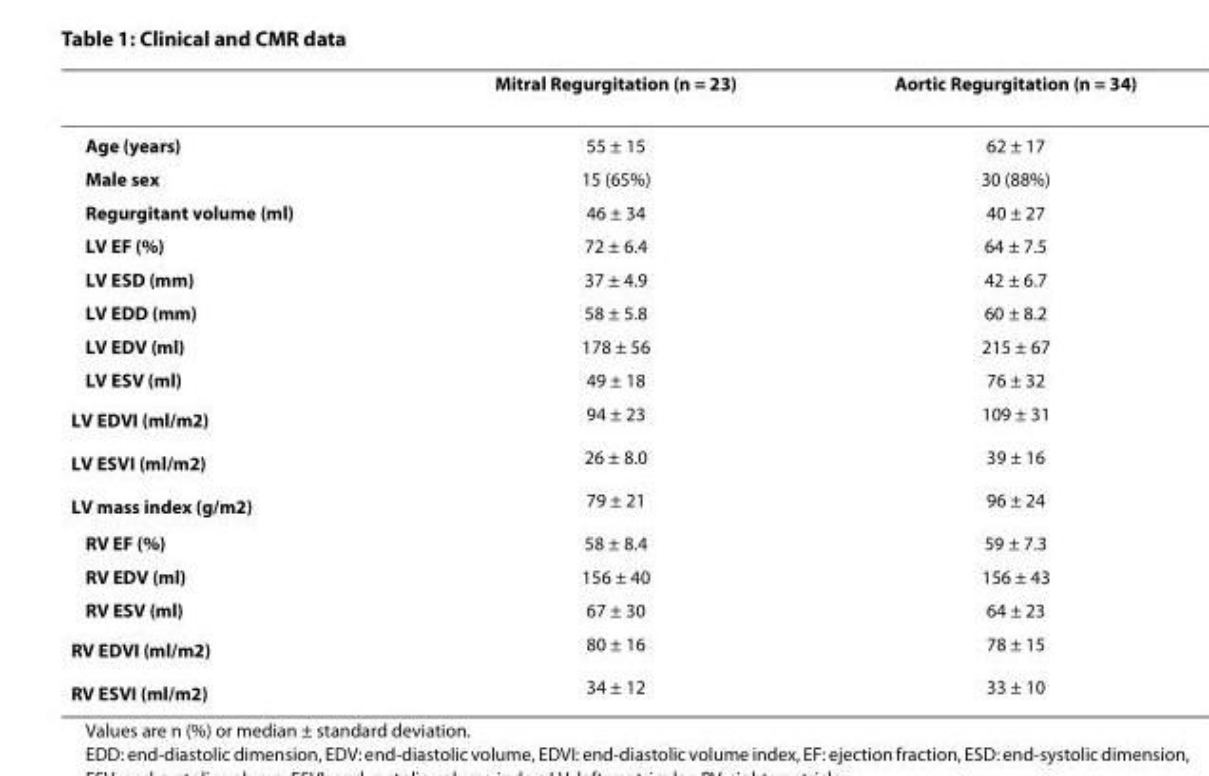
<table><thead><tr><td></td><td>Mitral Regurgitation (n = 23)</td><td>Aortic Regurgitation (n = 34)</td></tr></thead><tbody><tr><td>Age (years)</td><td>55 ± 15</td><td>62 ± 17</td></tr><tr><td>Male sex</td><td>15 (65%)</td><td>30 (88%)</td></tr><tr><td>Regurgitant volume (ml)</td><td>46 ± 34</td><td>40 ± 27</td></tr><tr><td>LV EF (%)</td><td>72 ± 6.4</td><td>64 ± 7.5</td></tr><tr><td>LV ESD (mm)</td><td>37 ± 4.9</td><td>42 ± 6.7</td></tr><tr><td>LV EDD (mm)</td><td>58 ± 5.8</td><td>60 ± 8.2</td></tr><tr><td>LV EDV (ml)</td><td>178 ± 56</td><td>215 ± 67</td></tr><tr><td>LV ESV (ml)</td><td>49 ± 18</td><td>76 ± 32</td></tr><tr><td>LV EDVI (ml/m<sup>2</sup>)</td><td>94 ± 23</td><td>109 ± 31</td></tr><tr><td>LV ESVI (ml/m<sup>2</sup>)</td><td>26 ± 8.0</td><td>39 ± 16</td></tr><tr><td>LV mass index (g/m<sup>2</sup>)</td><td>79 ± 21</td><td>96 ± 24</td></tr><tr><td>RV EF (%)</td><td>58 ± 8.4</td><td>59 ± 7.3</td></tr><tr><td>RV EDV (ml)</td><td>156 ± 40</td><td>156 ± 43</td></tr><tr><td>RV ESV (ml)</td><td>67 ± 30</td><td>64 ± 23</td></tr><tr><td>RV EDVI (ml/m<sup>2</sup>)</td><td>80 ± 16</td><td>78 ± 15</td></tr><tr><td>RV ESVI (ml/m<sup>2</sup>)</td><td>34 ± 12</td><td>33 ± 10</td></tr></tbody></table>